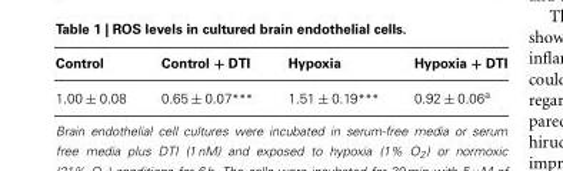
<table><thead><tr><td>Control</td><td>Control + DTI</td><td>Hypoxia</td><td>Hypoxia + DTI</td></tr></thead><tbody><tr><td>1.00 ± 0.08</td><td>0.65 ± 0.07***</td><td>1.51 ± 0.19***</td><td>0.92 ± 0.06<sup>a</sup></td></tr></tbody></table>